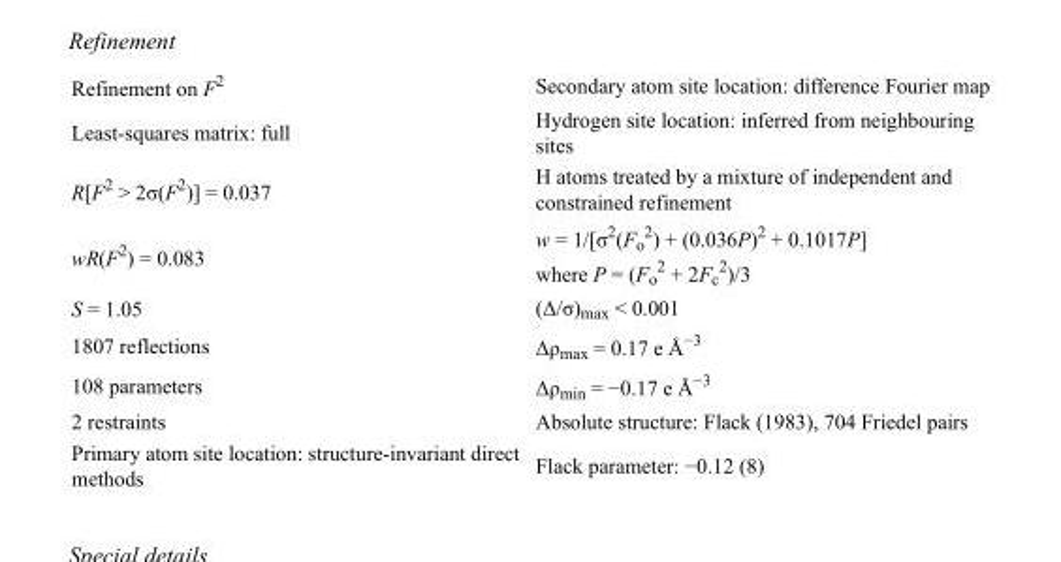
<table><tbody><tr><td>Refinement on F<sup>2</sup></td><td>Secondary atom site location: difference Fourier map</td></tr><tr><td>Least-squares matrix: full</td><td>Hydrogen site location: inferred from neighbouring sites</td></tr><tr><td>R[F<sup>2</sup> &gt; 2σ(F<sup>2</sup>)] = 0.037</td><td>H atoms treated by a mixture of independent and constrained refinement</td></tr><tr><td>wR(F<sup>2</sup>) = 0.083</td><td>w = 1/[σ<sup>2</sup>(F<sub>o</sub> <sup>2</sup>) + (0.036P)<sup>2</sup> + 0.1017P] where P = (F<sub>o</sub> <sup>2</sup> + 2F<sub>c</sub> <sup>2</sup>)/3</td></tr><tr><td>S = 1.05</td><td>(Δ/σ)<sub>max</sub> &lt; 0.001</td></tr><tr><td>1807 reflections</td><td>Δρ<sub>max</sub> = 0.17 e Å<sup>−3</sup></td></tr><tr><td>108 parameters</td><td>Δρ<sub>min</sub> = −0.17 e Å<sup>−3</sup></td></tr><tr><td>2 restraints</td><td>Absolute structure: Flack (1983), 704 Friedel pairs</td></tr><tr><td>Primary atom site location: structure-invariant direct methods</td><td>Flack parameter: −0.12 (8)</td></tr></tbody></table>